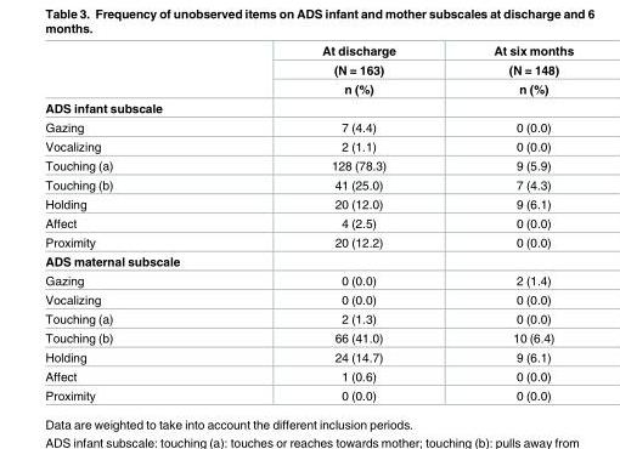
<table><thead><tr><td rowspan="3"></td><td rowspan="3">At discharge (N = 163) n (%)</td><td rowspan="3">At six months (N = 148) n (%)</td></tr><tr></tr><tr></tr></thead><tbody><tr><td colspan="3">ADS infant subscale</td></tr><tr><td>Gazing</td><td>7 (4.4)</td><td>0 (0.0)</td></tr><tr><td>Vocalizing</td><td>2 (1.1)</td><td>0 (0.0)</td></tr><tr><td>Touching (a)</td><td>128 (78.3)</td><td>9 (5.9)</td></tr><tr><td>Touching (b)</td><td>41 (25.0)</td><td>7 (4.3)</td></tr><tr><td>Holding</td><td>20 (12.0)</td><td>9 (6.1)</td></tr><tr><td>Affect</td><td>4 (2.5)</td><td>0 (0.0)</td></tr><tr><td>Proximity</td><td>20 (12.2)</td><td>0 (0.0)</td></tr><tr><td colspan="3">ADS maternal subscale</td></tr><tr><td>Gazing</td><td>0 (0.0)</td><td>2 (1.4)</td></tr><tr><td>Vocalizing</td><td>0 (0.0)</td><td>0 (0.0)</td></tr><tr><td>Touching (a)</td><td>2 (1.3)</td><td>0 (0.0)</td></tr><tr><td>Touching (b)</td><td>66 (41.0)</td><td>10 (6.4)</td></tr><tr><td>Holding</td><td>24 (14.7)</td><td>9 (6.1)</td></tr><tr><td>Affect</td><td>1 (0.6)</td><td>0 (0.0)</td></tr><tr><td>Proximity</td><td>0 (0.0)</td><td>0 (0.0)</td></tr></tbody></table>